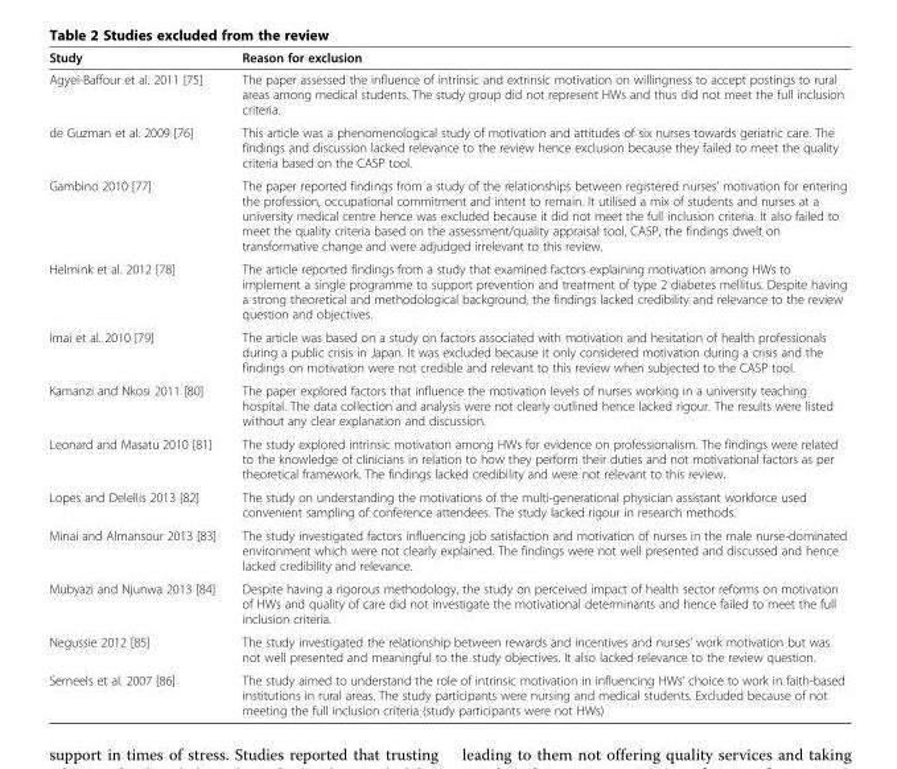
<table><thead><tr><td>Study</td><td>Reason for exclusion</td></tr></thead><tbody><tr><td>Agyei-Baffour et al. 2011 [75]</td><td>The paper assessed the influence of intrinsic and extrinsic motivation on willingness to accept postings to rural areas among medical students. The study group did not represent HWs and thus did not meet the full inclusion criteria.</td></tr><tr><td>de Guzman et al. 2009 [76]</td><td>This article was a phenomenological study of motivation and attitudes of six nurses towards geriatric care. The findings and discussion lacked relevance to the review hence exclusion because they failed to meet the quality criteria based on the CASP tool.</td></tr><tr><td>Gambino 2010 [77]</td><td>The paper reported findings from a study of the relationships between registered nurses’ motivation for entering the profession, occupational commitment and intent to remain. It utilised a mix of students and nurses at a university medical centre hence was excluded because it did not meet the full inclusion criteria. It also failed to meet the quality criteria based on the assessment/quality appraisal tool, CASP, the findings dwelt on transformative change and were adjudged irrelevant to this review.</td></tr><tr><td>Helmink et al. 2012 [78]</td><td>The article reported findings from a study that examined factors explaining motivation among HWs to implement a single programme to support prevention and treatment of type 2 diabetes mellitus. Despite having a strong theoretical and methodological background, the findings lacked credibility and relevance to the review question and objectives.</td></tr><tr><td>Imai et al. 2010 [79]</td><td>The article was based on a study on factors associated with motivation and hesitation of health professionals during a public crisis in Japan. It was excluded because it only considered motivation during a crisis and the findings on motivation were not credible and relevant to this review when subjected to the CASP tool.</td></tr><tr><td>Kamanzi and Nkosi 2011 [80]</td><td>The paper explored factors that influence the motivation levels of nurses working in a university teaching hospital. The data collection and analysis were not clearly outlined hence lacked rigour. The results were listed without any clear explanation and discussion.</td></tr><tr><td>Leonard and Masatu 2010 [81]</td><td>The study explored intrinsic motivation among HWs for evidence on professionalism. The findings were related to the knowledge of clinicians in relation to how they perform their duties and not motivational factors as per theoretical framework. The findings lacked credibility and were not relevant to this review.</td></tr><tr><td>Lopes and Delellis 2013 [82]</td><td>The study on understanding the motivations of the multi-generational physician assistant workforce used convenient sampling of conference attendees. The study lacked rigour in research methods.</td></tr><tr><td>Minai and Almansour 2013 [83]</td><td>The study investigated factors influencing job satisfaction and motivation of nurses in the male nurse-dominated environment which were not clearly explained. The findings were not well presented and discussed and hence lacked credibility and relevance.</td></tr><tr><td>Mubyazi and Njunwa 2013 [84]</td><td>Despite having a rigorous methodology, the study on perceived impact of health sector reforms on motivation of HWs and quality of care did not investigate the motivational determinants and hence failed to meet the full inclusion criteria.</td></tr><tr><td>Negussie 2012 [85]</td><td>The study investigated the relationship between rewards and incentives and nurses’ work motivation but was not well presented and meaningful to the study objectives. It also lacked relevance to the review question.</td></tr><tr><td>Serneels et al. 2007 [86]</td><td>The study aimed to understand the role of intrinsic motivation in influencing HWs’ choice to work in faith-based institutions in rural areas. The study participants were nursing and medical students. Excluded because of not meeting the full inclusion criteria (study participants were not HWs)</td></tr></tbody></table>